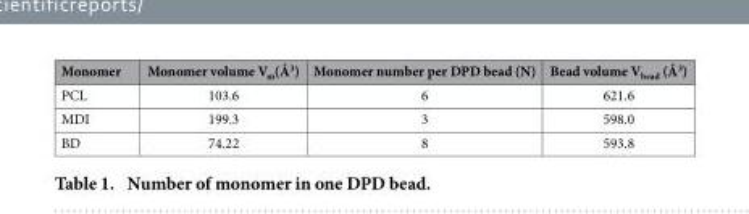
<table><thead><tr><td>Monomer</td><td>Monomer volume V<sub>m</sub>(Å<sup>3</sup>)</td><td>Monomer number per DPD bead (N)</td><td>Bead volume V<sub>bead</sub> (Å<sup>3</sup>)</td></tr></thead><tbody><tr><td>PCL</td><td>103.6</td><td>6</td><td>621.6</td></tr><tr><td>MDI</td><td>199.3</td><td>3</td><td>598.0</td></tr><tr><td>BD</td><td>74.22</td><td>8</td><td>593.8</td></tr></tbody></table>